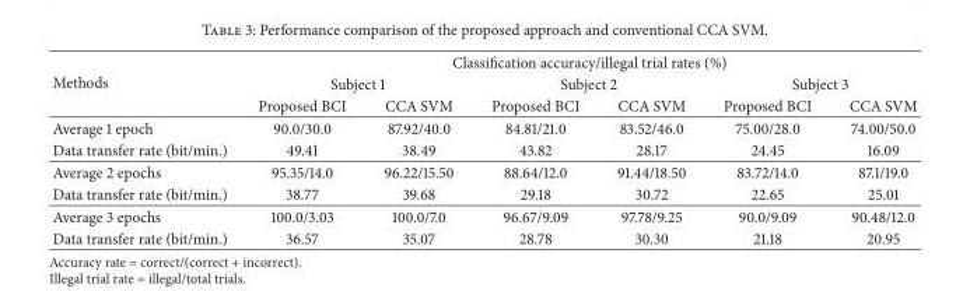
<table><thead><tr><td rowspan="3">Methods</td><td colspan="6">Classification accuracy/illegal trial rates (%)</td></tr><tr><td colspan="2">Subject 1</td><td colspan="2">Subject 2</td><td colspan="2">Subject 3</td></tr><tr><td>Proposed BCI</td><td>CCA SVM</td><td>Proposed BCI</td><td>CCA SVM</td><td>Proposed BCI</td><td>CCA SVM</td></tr></thead><tbody><tr><td>Average 1 epoch</td><td>90.0/30.0</td><td>87.92/40.0</td><td>84.81/21.0</td><td>83.52/46.0</td><td>75.00/28.0</td><td>74.00/50.0</td></tr><tr><td>Data transfer rate (bit/min.)</td><td>49.41</td><td>38.49</td><td>43.82</td><td>28.17</td><td>24.45</td><td>16.09</td></tr><tr><td>Average 2 epochs</td><td>95.35/14.0</td><td>96.22/15.50</td><td>88.64/12.0</td><td>91.44/18.50</td><td>83.72/14.0</td><td>87.1/19.0</td></tr><tr><td>Data transfer rate (bit/min.)</td><td>38.77</td><td>39.68</td><td>29.18</td><td>30.72</td><td>22.65</td><td>25.01</td></tr><tr><td>Average 3 epochs</td><td>100.0/3.03</td><td>100.0/7.0</td><td>96.67/9.09</td><td>97.78/9.25</td><td>90.0/9.09</td><td>90.48/12.0</td></tr><tr><td>Data transfer rate (bit/min.)</td><td>36.57</td><td>35.07</td><td>28.78</td><td>30.30</td><td>21.18</td><td>20.95</td></tr></tbody></table>